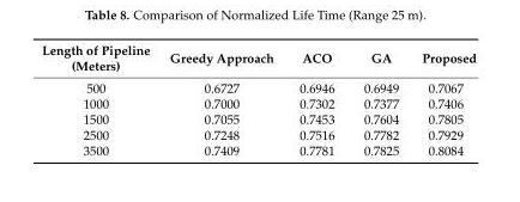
<table><thead><tr><td>Length of Pipeline (Meters)</td><td>Greedy Approach</td><td>ACO</td><td>GA</td><td>Proposed</td></tr></thead><tbody><tr><td>500</td><td>0.6727</td><td>0.6946</td><td>0.6949</td><td>0.7067</td></tr><tr><td>1000</td><td>0.7000</td><td>0.7302</td><td>0.7377</td><td>0.7406</td></tr><tr><td>1500</td><td>0.7055</td><td>0.7453</td><td>0.7604</td><td>0.7805</td></tr><tr><td>2500</td><td>0.7248</td><td>0.7516</td><td>0.7782</td><td>0.7929</td></tr><tr><td>3500</td><td>0.7409</td><td>0.7781</td><td>0.7825</td><td>0.8084</td></tr></tbody></table>